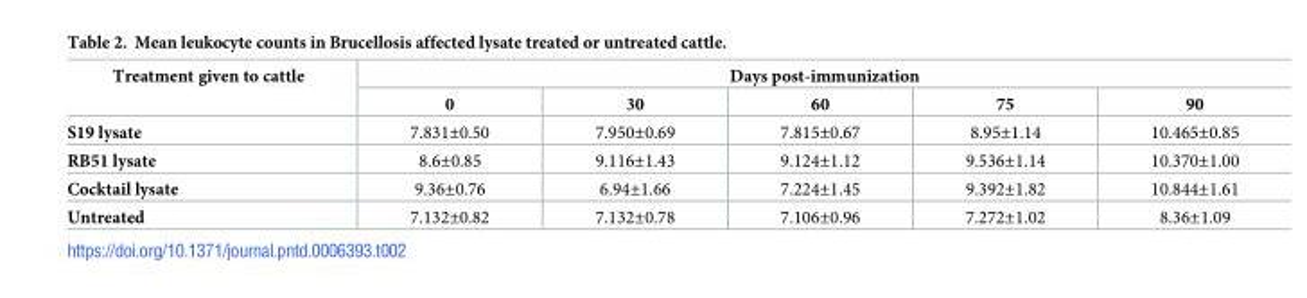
<table><thead><tr><td rowspan="2">Treatment given to cattle</td><td colspan="5">Days post-immunization</td></tr><tr><td>0</td><td>30</td><td>60</td><td>75</td><td>90</td></tr></thead><tbody><tr><td>S19 lysate</td><td>7.831±0.50</td><td>7.950±0.69</td><td>7.815±0.67</td><td>8.95±1.14</td><td>10.465±0.85</td></tr><tr><td>RB51 lysate</td><td>8.6±0.85</td><td>9.116±1.43</td><td>9.124±1.12</td><td>9.536±1.14</td><td>10.370±1.00</td></tr><tr><td>Cocktail lysate</td><td>9.36±0.76</td><td>6.94±1.66</td><td>7.224±1.45</td><td>9.392±1.82</td><td>10.844±1.61</td></tr><tr><td>Untreated</td><td>7.132±0.82</td><td>7.132±0.78</td><td>7.106±0.96</td><td>7.272±1.02</td><td>8.36±1.09</td></tr></tbody></table>